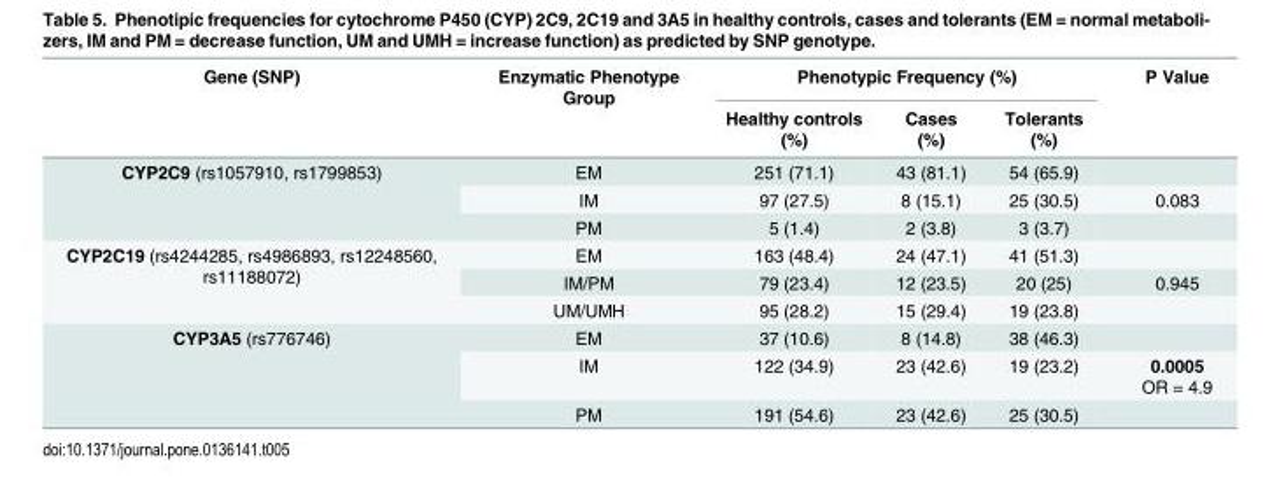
<table><thead><tr><td rowspan="2">Gene (SNP)</td><td rowspan="2">Enzymatic Phenotype Group</td><td colspan="3">Phenotypic Frequency (%)</td><td rowspan="2">P Value</td></tr><tr><td>Healthy controls (%)</td><td>Cases (%)</td><td>Tolerants (%)</td></tr></thead><tbody><tr><td rowspan="3">CYP2C9 (rs1057910, rs1799853)</td><td>EM</td><td>251 (71.1)</td><td>43 (81.1)</td><td>54 (65.9)</td><td></td></tr><tr><td>IM</td><td>97 (27.5)</td><td>8 (15.1)</td><td>25 (30.5)</td><td>0.083</td></tr><tr><td>PM</td><td>5 (1.4)</td><td>2 (3.8)</td><td>3 (3.7)</td><td></td></tr><tr><td rowspan="3">CYP2C19 (rs4244285, rs4986893, rs12248560, rs11188072)</td><td>EM</td><td>163 (48.4)</td><td>24 (47.1)</td><td>41 (51.3)</td><td></td></tr><tr><td>IM/PM</td><td>79 (23.4)</td><td>12 (23.5)</td><td>20 (25)</td><td>0.945</td></tr><tr><td>UM/UMH</td><td>95 (28.2)</td><td>15 (29.4)</td><td>19 (23.8)</td><td></td></tr><tr><td rowspan="3">CYP3A5 (rs776746)</td><td>EM</td><td>37 (10.6)</td><td>8 (14.8)</td><td>38 (46.3)</td><td></td></tr><tr><td>IM</td><td>122 (34.9)</td><td>23 (42.6)</td><td>19 (23.2)</td><td>0.0005 OR = 4.9</td></tr><tr><td>PM</td><td>191 (54.6)</td><td>23 (42.6)</td><td>25 (30.5)</td><td></td></tr></tbody></table>